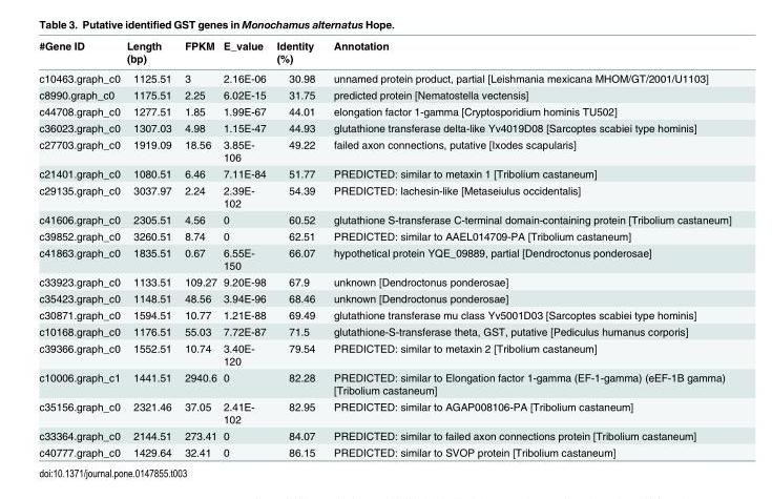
<table><thead><tr><td>#Gene ID</td><td>Length (bp)</td><td>FPKM</td><td>E_value</td><td>Identity (%)</td><td>Annotation</td></tr></thead><tbody><tr><td>c10463.graph_c0</td><td>1125.51</td><td>3</td><td>2.16E-06</td><td>30.98</td><td>unnamed protein product, partial [Leishmania mexicana MHOM/GT/2001/U1103]</td></tr><tr><td>c8990.graph_c0</td><td>1175.51</td><td>2.25</td><td>6.02E-15</td><td>31.75</td><td>predicted protein [Nematostella vectensis]</td></tr><tr><td>c44708.graph_c0</td><td>1277.51</td><td>1.85</td><td>1.99E-67</td><td>44.01</td><td>elongation factor 1-gamma [Cryptosporidium hominis TU502]</td></tr><tr><td>c36023.graph_c0</td><td>1307.03</td><td>4.98</td><td>1.15E-47</td><td>44.93</td><td>glutathione transferase delta-like Yv4019D08 [Sarcoptes scabiei type hominis]</td></tr><tr><td>c27703.graph_c0</td><td>1919.09</td><td>18.56</td><td>3.85E- 106</td><td>49.22</td><td>failed axon connections, putative [Ixodes scapularis]</td></tr><tr><td>c21401.graph_c0</td><td>1080.51</td><td>6.46</td><td>7.11E-84</td><td>51.77</td><td>PREDICTED: similar to metaxin 1 [Tribolium castaneum]</td></tr><tr><td>c29135.graph_c0</td><td>3037.97</td><td>2.24</td><td>2.39E- 102</td><td>54.39</td><td>PREDICTED: lachesin-like [Metaseiulus occidentalis]</td></tr><tr><td>c41606.graph_c0</td><td>2305.51</td><td>4.56</td><td>0</td><td>60.52</td><td>glutathione S-transferase C-terminal domain-containing protein [Tribolium castaneum]</td></tr><tr><td>c39852.graph_c0</td><td>3260.51</td><td>8.74</td><td>0</td><td>62.51</td><td>PREDICTED: similar to AAEL014709-PA [Tribolium castaneum]</td></tr><tr><td>c41863.graph_c0</td><td>1835.51</td><td>0.67</td><td>6.55E- 150</td><td>66.07</td><td>hypothetical protein YQE_09889, partial [Dendroctonus ponderosae]</td></tr><tr><td>c33923.graph_c0</td><td>1133.51</td><td>109.27</td><td>9.20E-98</td><td>67.9</td><td>unknown [Dendroctonus ponderosae]</td></tr><tr><td>c35423.graph_c0</td><td>1148.51</td><td>48.56</td><td>3.94E-96</td><td>68.46</td><td>unknown [Dendroctonus ponderosae]</td></tr><tr><td>c30871.graph_c0</td><td>1594.51</td><td>10.77</td><td>1.21E-88</td><td>69.49</td><td>glutathione transferase mu class Yv5001D03 [Sarcoptes scabiei type hominis]</td></tr><tr><td>c10168.graph_c0</td><td>1176.51</td><td>55.03</td><td>7.72E-87</td><td>71.5</td><td>glutathione-S-transferase theta, GST, putative [Pediculus humanus corporis]</td></tr><tr><td>c39366.graph_c0</td><td>1552.51</td><td>10.74</td><td>3.40E- 120</td><td>79.54</td><td>PREDICTED: similar to metaxin 2 [Tribolium castaneum]</td></tr><tr><td>c10006.graph_c1</td><td>1441.51</td><td>2940.6</td><td>0</td><td>82.28</td><td>PREDICTED: similar to Elongation factor 1-gamma (EF-1-gamma) (eEF-1B gamma) [Tribolium castaneum]</td></tr><tr><td>c35156.graph_c0</td><td>2321.46</td><td>37.05</td><td>2.41E- 102</td><td>82.95</td><td>PREDICTED: similar to AGAP008106-PA [Tribolium castaneum]</td></tr><tr><td>c33364.graph_c0</td><td>2144.51</td><td>273.41</td><td>0</td><td>84.07</td><td>PREDICTED: similar to failed axon connections protein [Tribolium castaneum]</td></tr><tr><td>c40777.graph_c0</td><td>1429.64</td><td>32.41</td><td>0</td><td>86.15</td><td>PREDICTED: similar to SVOP protein [Tribolium castaneum]</td></tr></tbody></table>